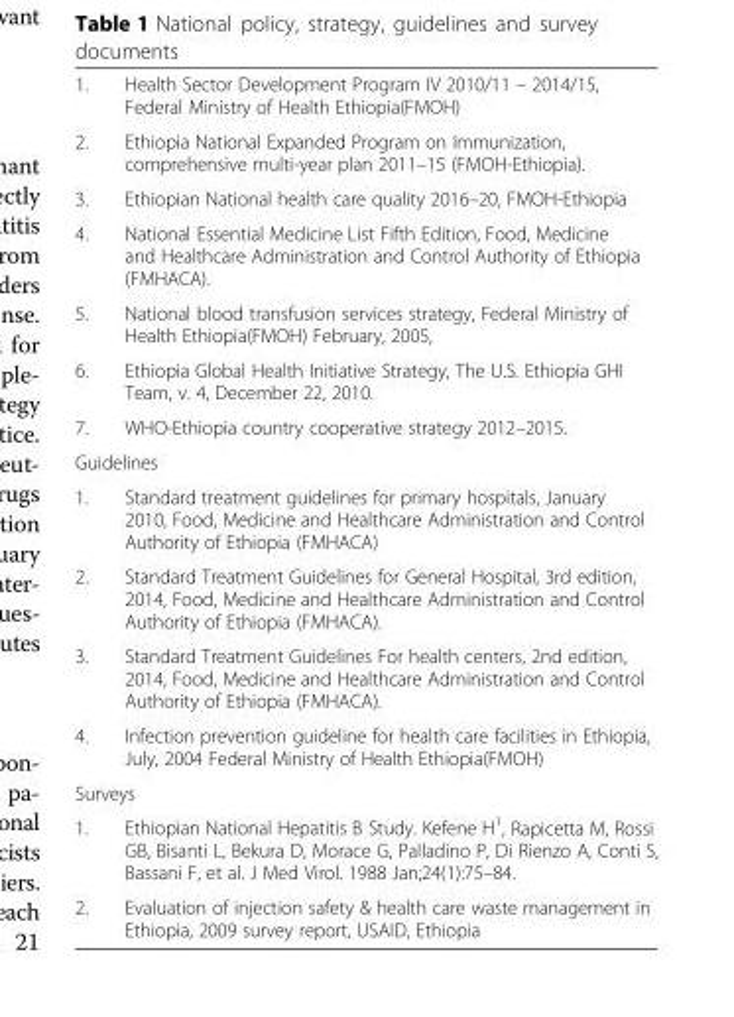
<table><tbody><tr><td>1.</td><td>Health Sector Development Program IV 2010/11 – 2014/15, Federal Ministry of Health Ethiopia(FMOH)</td></tr><tr><td>2.</td><td>Ethiopia National Expanded Program on Immunization, comprehensive multi-year plan 2011–15 (FMOH-Ethiopia).</td></tr><tr><td>3.</td><td>Ethiopian National health care quality 2016–20, FMOH-Ethiopia</td></tr><tr><td>4.</td><td>National Essential Medicine List Fifth Edition, Food, Medicine and Healthcare Administration and Control Authority of Ethiopia (FMHACA).</td></tr><tr><td>5.</td><td>National blood transfusion services strategy, Federal Ministry of Health Ethiopia(FMOH) February, 2005,</td></tr><tr><td>6.</td><td>Ethiopia Global Health Initiative Strategy, The U.S. Ethiopia GHI Team, v. 4, December 22, 2010.</td></tr><tr><td>7.</td><td>WHO-Ethiopia country cooperative strategy 2012–2015.</td></tr><tr><td colspan="2">Guidelines</td></tr><tr><td>1.</td><td>Standard treatment guidelines for primary hospitals, January 2010, Food, Medicine and Healthcare Administration and Control Authority of Ethiopia (FMHACA)</td></tr><tr><td>2.</td><td>Standard Treatment Guidelines for General Hospital, 3rd edition, 2014, Food, Medicine and Healthcare Administration and Control Authority of Ethiopia (FMHACA).</td></tr><tr><td>3.</td><td>Standard Treatment Guidelines For health centers, 2nd edition, 2014, Food, Medicine and Healthcare Administration and Control Authority of Ethiopia (FMHACA).</td></tr><tr><td>4.</td><td>Infection prevention guideline for health care facilities in Ethiopia, July, 2004 Federal Ministry of Health Ethiopia(FMOH)</td></tr><tr><td colspan="2">Surveys</td></tr><tr><td>1.</td><td>Ethiopian National Hepatitis B Study. Kefene H<sup>1</sup>, Rapicetta M, Rossi GB, Bisanti L, Bekura D, Morace G, Palladino P, Di Rienzo A, Conti S, Bassani F, et al. J Med Virol. 1988 Jan;24(1):75–84.</td></tr><tr><td>2.</td><td>Evaluation of injection safety &amp; health care waste management in Ethiopia, 2009 survey report, USAID, Ethiopia</td></tr></tbody></table>